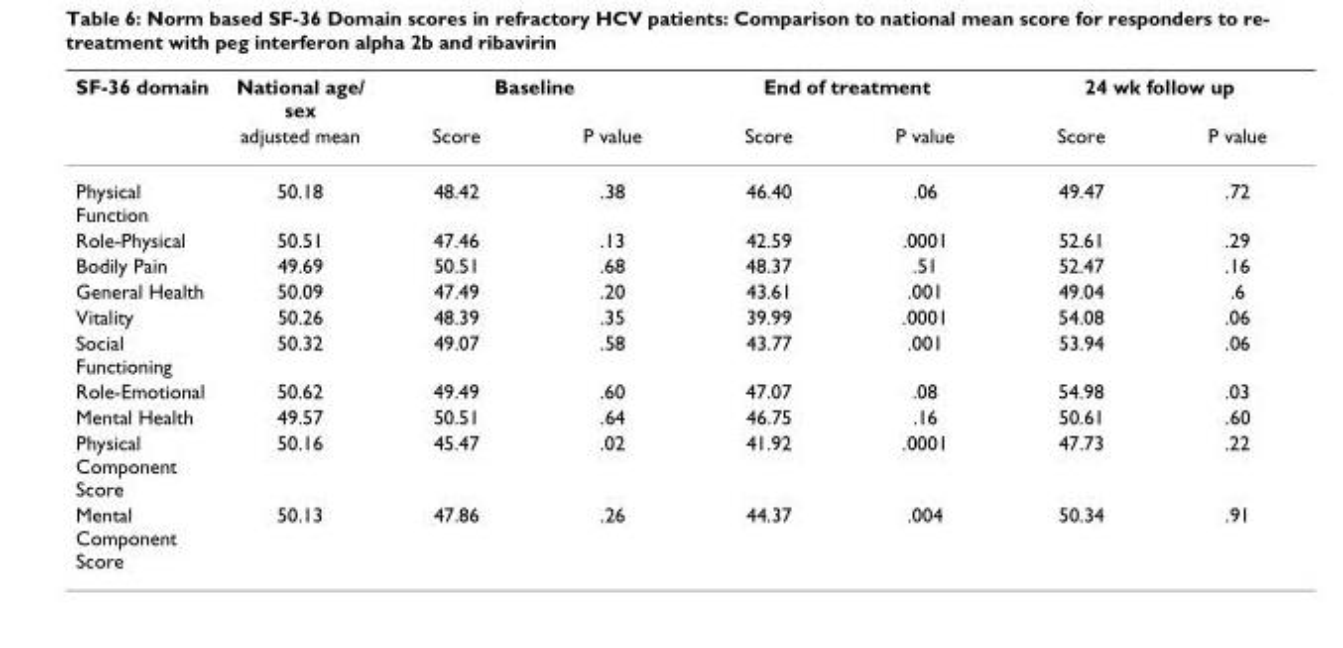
<table><thead><tr><td rowspan="2">SF-36 domain</td><td rowspan="2">National age/ sex adjusted mean</td><td colspan="2">Baseline</td><td colspan="2">End of treatment</td><td colspan="2">24 wk follow up</td></tr><tr><td>Score</td><td>P value</td><td>Score</td><td>P value</td><td>Score</td><td>P value</td></tr></thead><tbody><tr><td>Physical Function</td><td>50.18</td><td>48.42</td><td>.38</td><td>46.40</td><td>.06</td><td>49.47</td><td>.72</td></tr><tr><td>Role-Physical</td><td>50.51</td><td>47.46</td><td>.13</td><td>42.59</td><td>.0001</td><td>52.61</td><td>.29</td></tr><tr><td>Bodily Pain</td><td>49.69</td><td>50.51</td><td>.68</td><td>48.37</td><td>.51</td><td>52.47</td><td>.16</td></tr><tr><td>General Health</td><td>50.09</td><td>47.49</td><td>.20</td><td>43.61</td><td>.001</td><td>49.04</td><td>.6</td></tr><tr><td>Vitality</td><td>50.26</td><td>48.39</td><td>.35</td><td>39.99</td><td>.0001</td><td>54.08</td><td>.06</td></tr><tr><td>Social Functioning</td><td>50.32</td><td>49.07</td><td>.58</td><td>43.77</td><td>.001</td><td>53.94</td><td>.06</td></tr><tr><td>Role-Emotional</td><td>50.62</td><td>49.49</td><td>.60</td><td>47.07</td><td>.08</td><td>54.98</td><td>.03</td></tr><tr><td>Mental Health</td><td>49.57</td><td>50.51</td><td>.64</td><td>46.75</td><td>.16</td><td>50.61</td><td>.60</td></tr><tr><td>Physical Component Score</td><td>50.16</td><td>45.47</td><td>.02</td><td>41.92</td><td>.0001</td><td>47.73</td><td>.22</td></tr><tr><td>Mental Component Score</td><td>50.13</td><td>47.86</td><td>.26</td><td>44.37</td><td>.004</td><td>50.34</td><td>.91</td></tr></tbody></table>